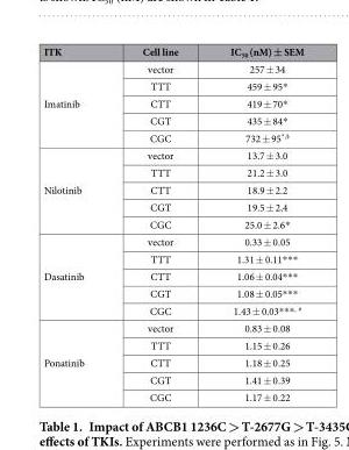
<table><thead><tr><td>ITK</td><td>Cell line</td><td>IC<sub>50</sub> (nM) ± SEM</td></tr></thead><tbody><tr><td rowspan="5">Imatinib</td><td>vector</td><td>257 ± 34</td></tr><tr><td>TTT</td><td>459 ± 95*</td></tr><tr><td>CTT</td><td>419 ± 70*</td></tr><tr><td>CGT</td><td>435 ± 84*</td></tr><tr><td>CGC</td><td>732 ± 95<sup>*,§</sup></td></tr><tr><td rowspan="5">Nilotinib</td><td>vector</td><td>13.7 ± 3.0</td></tr><tr><td>TTT</td><td>21.2 ± 3.0</td></tr><tr><td>CTT</td><td>18.9 ± 2.2</td></tr><tr><td>CGT</td><td>19.5 ± 2,4</td></tr><tr><td>CGC</td><td>25.0 ± 2.6*</td></tr><tr><td rowspan="5">Dasatinib</td><td>vector</td><td>0.33 ± 0.05</td></tr><tr><td>TTT</td><td>1.31 ± 0.11* * *</td></tr><tr><td>CTT</td><td>1.06 ± 0.04* * *</td></tr><tr><td>CGT</td><td>1.08 ± 0.05* * *</td></tr><tr><td>CGC</td><td>1.43 ± 0.03* * *<sup>, #</sup></td></tr><tr><td rowspan="5">Ponatinib</td><td>vector</td><td>0.83 ± 0.08</td></tr><tr><td>TTT</td><td>1.15 ± 0.26</td></tr><tr><td>CTT</td><td>1.18 ± 0.25</td></tr><tr><td>CGT</td><td>1.41 ± 0.39</td></tr><tr><td>CGC</td><td>1.17 ± 0.22</td></tr></tbody></table>